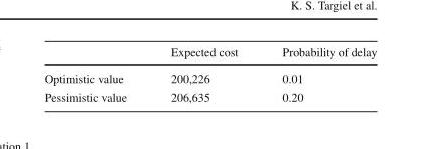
<table><thead><tr><td></td><td>Expected cost</td><td>Probability of delay</td></tr></thead><tbody><tr><td>Optimistic value</td><td>200,226</td><td>0.01</td></tr><tr><td>Pessimistic value</td><td>206,635</td><td>0.20</td></tr></tbody></table>